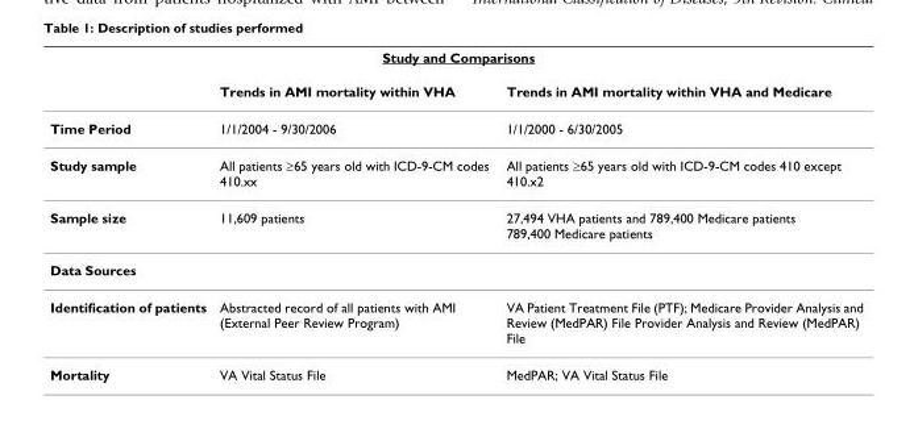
<table><thead><tr><td colspan="3">Study and Comparisons</td></tr><tr><td></td><td>Trends in AMI mortality within VHA</td><td>Trends in AMI mortality within VHA and Medicare</td></tr></thead><tbody><tr><td>Time Period</td><td>1/1/2004 - 9/30/2006</td><td>1/1/2000 - 6/30/2005</td></tr><tr><td>Study sample</td><td>All patients ≥65 years old with ICD-9-CM codes 410.xx</td><td>All patients ≥65 years old with ICD-9-CM codes 410 except 410.x2</td></tr><tr><td>Sample size</td><td>11,609 patients</td><td>27,494 VHA patients and 789,400 Medicare patients 789,400 Medicare patients</td></tr><tr><td colspan="3">Data Sources</td></tr><tr><td>Identification of patients</td><td>Abstracted record of all patients with AMI (External Peer Review Program)</td><td>VA Patient Treatment File (PTF); Medicare Provider Analysis and Review (MedPAR) File Provider Analysis and Review (MedPAR) File</td></tr><tr><td>Mortality</td><td>VA Vital Status File</td><td>MedPAR; VA Vital Status File</td></tr></tbody></table>